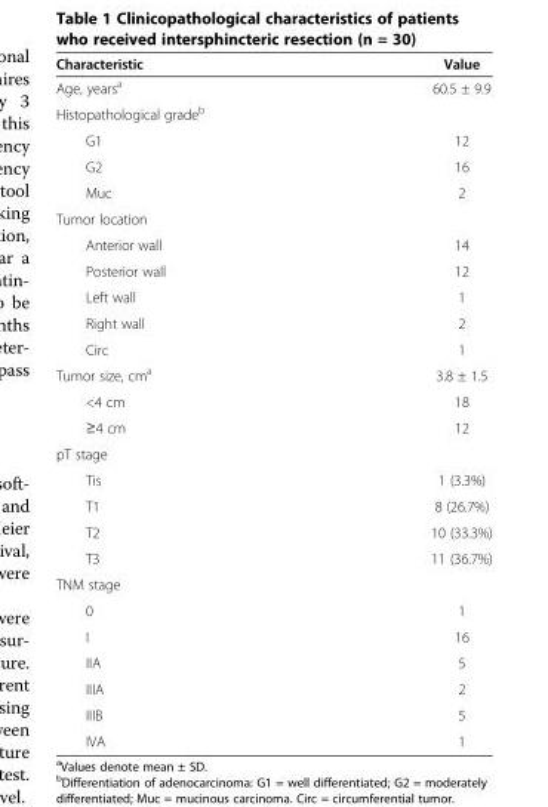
<table><thead><tr><td>Characteristic</td><td>Value</td></tr></thead><tbody><tr><td>Age, years<sup>a</sup></td><td>60.5 ± 9.9</td></tr><tr><td colspan="2">Histopathological grade<sup>b</sup></td></tr><tr><td>G1</td><td>12</td></tr><tr><td>G2</td><td>16</td></tr><tr><td>Muc</td><td>2</td></tr><tr><td colspan="2">Tumor location</td></tr><tr><td>Anterior wall</td><td>14</td></tr><tr><td>Posterior wall</td><td>12</td></tr><tr><td>Left wall</td><td>1</td></tr><tr><td>Right wall</td><td>2</td></tr><tr><td>Circ</td><td>1</td></tr><tr><td>Tumor size, cm<sup>a</sup></td><td>3.8 ± 1.5</td></tr><tr><td>&lt;4 cm</td><td>18</td></tr><tr><td>≥4 cm</td><td>12</td></tr><tr><td colspan="2">pT stage</td></tr><tr><td>Tis</td><td>1 (3.3%)</td></tr><tr><td>T1</td><td>8 (26.7%)</td></tr><tr><td>T2</td><td>10 (33.3%)</td></tr><tr><td>T3</td><td>11 (36.7%)</td></tr><tr><td colspan="2">TNM stage</td></tr><tr><td>0</td><td>1</td></tr><tr><td>I</td><td>16</td></tr><tr><td>IIA</td><td>5</td></tr><tr><td>IIIA</td><td>2</td></tr><tr><td>IIIB</td><td>5</td></tr><tr><td>IVA</td><td>1</td></tr></tbody></table>